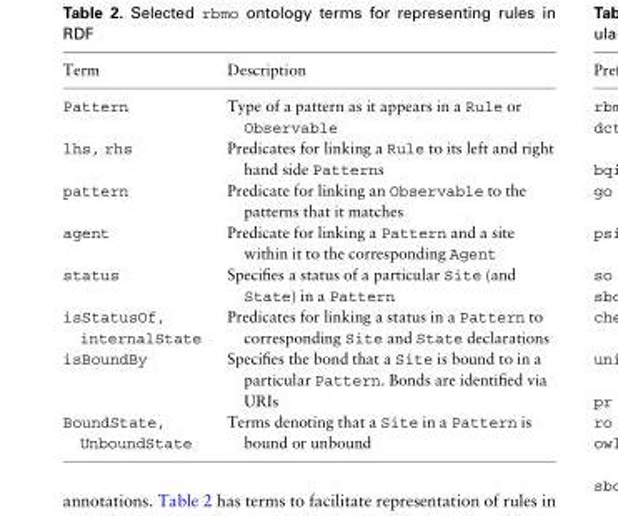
<table><thead><tr><td>Term</td><td>Description</td></tr></thead><tbody><tr><td>Pattern</td><td>Type of a pattern as it appears in a Rule or Observable</td></tr><tr><td>lhs, rhs</td><td>Predicates for linking a Rule to its left and right hand side Patterns</td></tr><tr><td>pattern</td><td>Predicate for linking an Observable to the patterns that it matches</td></tr><tr><td>agent</td><td>Predicate for linking a Pattern and a site within it to the corresponding Agent</td></tr><tr><td>status</td><td>Specifies a status of a particular Site (and State) in a Pattern</td></tr><tr><td>isStatusOf, internalState</td><td>Predicates for linking a status in a Pattern to corresponding Site and State declarations</td></tr><tr><td>isBoundBy</td><td>Specifies the bond that a Site is bound to in a particular Pattern. Bonds are identified via URIs</td></tr><tr><td>BoundState, UnboundState</td><td>Terms denoting that a Site in a Pattern is bound or unbound</td></tr></tbody></table>